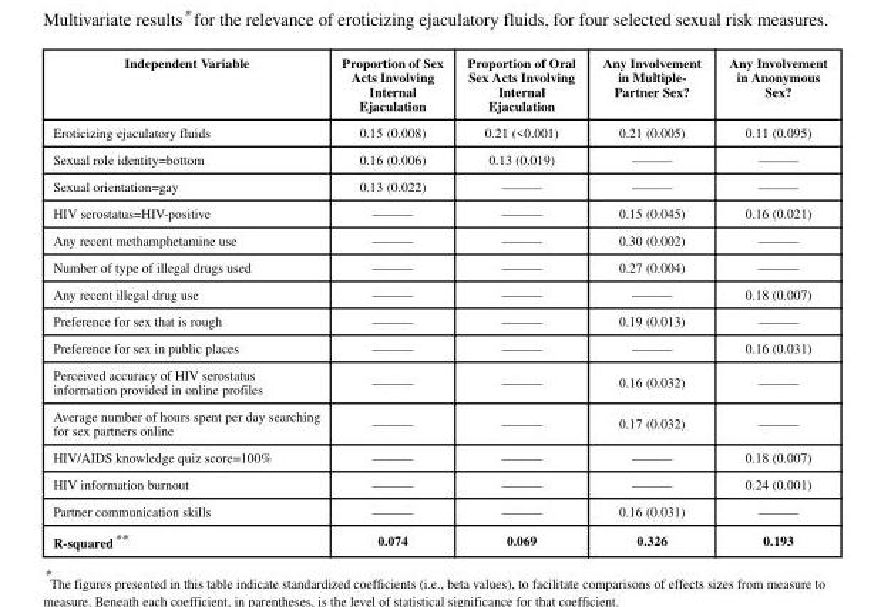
<table><thead><tr><td>Independent Variable</td><td>Proportion of Sex Acts Involving Internal Ejaculation</td><td>Proportion of Oral Sex Acts Involving Internal Ejaculation</td><td>Any Involvement in Multiple- Partner Sex?</td><td>Any Involvement in Anonymous Sex?</td></tr></thead><tbody><tr><td>Eroticizing ejaculatory fluids</td><td>0.15 (0.008)</td><td>0.21 (&lt;0.001)</td><td>0.21 (0.005)</td><td>0.11 (0.095)</td></tr><tr><td>Sexual role identity=bottom</td><td>0.16 (0.006)</td><td>0.13 (0.019)</td><td>———</td><td>———</td></tr><tr><td>Sexual orientation=gay</td><td>0.13 (0.022)</td><td>———</td><td>———</td><td>———</td></tr><tr><td>HIV serostatus=HIV-positive</td><td>———</td><td>———</td><td>0.15 (0.045)</td><td>0.16 (0.021)</td></tr><tr><td>Any recent methamphetamine use</td><td>———</td><td>———</td><td>0.30 (0.002)</td><td>———</td></tr><tr><td>Number of type of illegal drugs used</td><td>———</td><td>———</td><td>0.27 (0.004)</td><td>———</td></tr><tr><td>Any recent illegal drug use</td><td>———</td><td>———</td><td>———</td><td>0.18 (0.007)</td></tr><tr><td>Preference for sex that is rough</td><td>———</td><td>———</td><td>0.19 (0.013)</td><td>———</td></tr><tr><td>Preference for sex in public places</td><td>———</td><td>———</td><td>———</td><td>0.16 (0.031)</td></tr><tr><td>Perceived accuracy of HIV serostatus information provided in online profiles</td><td>———</td><td>———</td><td>0.16 (0.032)</td><td>———</td></tr><tr><td>Average number of hours spent per day searching for sex partners online</td><td>———</td><td>———</td><td>0.17 (0.032)</td><td>———</td></tr><tr><td>HIV/AIDS knowledge quiz score=100%</td><td>———</td><td>———</td><td>———</td><td>0.18 (0.007)</td></tr><tr><td>HIV information burnout</td><td>———</td><td>———</td><td>———</td><td>0.24 (0.001)</td></tr><tr><td>Partner communication skills</td><td>———</td><td>———</td><td>0.16 (0.031)</td><td>———</td></tr><tr><td>R-squared**</td><td>0.074</td><td>0.069</td><td>0.326</td><td>0.193</td></tr></tbody></table>